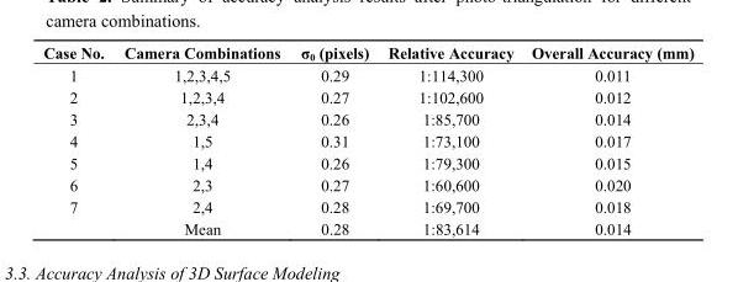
<table><thead><tr><td>Case No.</td><td>Camera Combinations</td><td>σ<sub>0</sub> (pixels)</td><td>Relative Accuracy</td><td>Overall Accuracy (mm)</td></tr></thead><tbody><tr><td>1</td><td>1,2,3,4,5</td><td>0.29</td><td>1:114,300</td><td>0.011</td></tr><tr><td>2</td><td>1,2,3,4</td><td>0.27</td><td>1:102,600</td><td>0.012</td></tr><tr><td>3</td><td>2,3,4</td><td>0.26</td><td>1:85,700</td><td>0.014</td></tr><tr><td>4</td><td>1,5</td><td>0.31</td><td>1:73,100</td><td>0.017</td></tr><tr><td>5</td><td>1,4</td><td>0.26</td><td>1:79,300</td><td>0.015</td></tr><tr><td>6</td><td>2,3</td><td>0.27</td><td>1:60,600</td><td>0.020</td></tr><tr><td rowspan="2">7</td><td>2,4</td><td>0.28</td><td>1:69,700</td><td>0.018</td></tr><tr><td>Mean</td><td>0.28</td><td>1:83,614</td><td>0.014</td></tr></tbody></table>